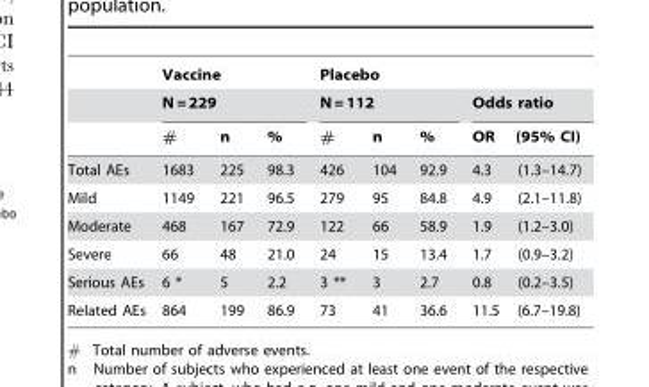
<table><thead><tr><td rowspan="3"></td><td rowspan="2" colspan="3">Vaccine N = 229</td><td rowspan="2" colspan="3">Placebo N = 112</td><td rowspan="3">Odds ratio OR (95% CI)</td></tr><tr></tr><tr><td>#</td><td>n</td><td>%</td><td>#</td><td>n</td><td>%</td></tr></thead><tbody><tr><td>Total AEs</td><td>1683</td><td>225</td><td>98.3</td><td>426</td><td>104</td><td>92.9</td><td>4.3 (1.3–14.7)</td></tr><tr><td>Mild</td><td>1149</td><td>221</td><td>96.5</td><td>279</td><td>95</td><td>84.8</td><td>4.9 (2.1–11.8)</td></tr><tr><td>Moderate</td><td>468</td><td>167</td><td>72.9</td><td>122</td><td>66</td><td>58.9</td><td>1.9 (1.2–3.0)</td></tr><tr><td>Severe</td><td>66</td><td>48</td><td>21.0</td><td>24</td><td>15</td><td>13.4</td><td>1.7 (0.9–3.2)</td></tr><tr><td>Serious AEs</td><td>6 *</td><td>5</td><td>2.2</td><td>3 **</td><td>3</td><td>2.7</td><td>0.8 (0.2–3.5)</td></tr><tr><td>Related AEs</td><td>864</td><td>199</td><td>86.9</td><td>73</td><td>41</td><td>36.6</td><td>11.5 (6.7–19.8)</td></tr></tbody></table>